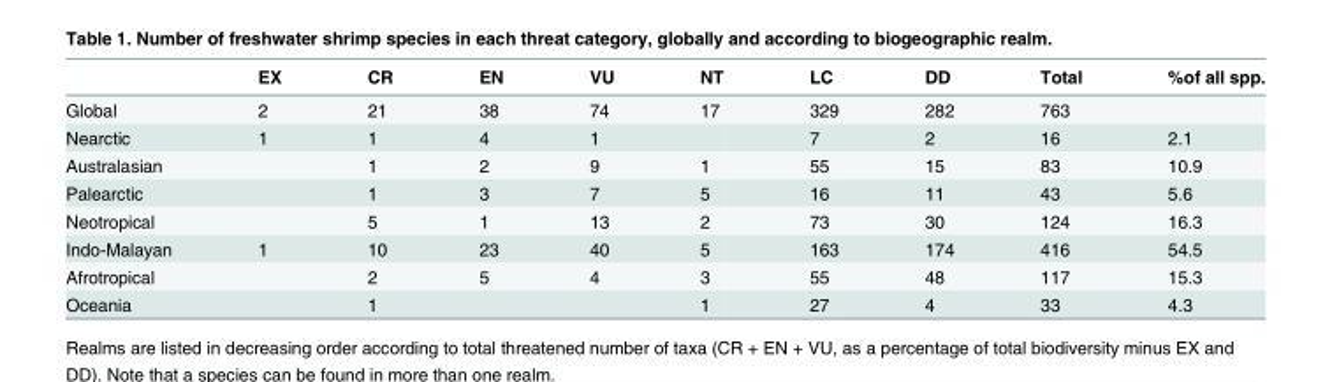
<table><thead><tr><td></td><td>EX</td><td>CR</td><td>EN</td><td>VU</td><td>NT</td><td>LC</td><td>DD</td><td>Total</td><td>%of all spp.</td></tr></thead><tbody><tr><td>Global</td><td>2</td><td>21</td><td>38</td><td>74</td><td>17</td><td>329</td><td>282</td><td>763</td><td></td></tr><tr><td>Nearctic</td><td>1</td><td>1</td><td>4</td><td>1</td><td></td><td>7</td><td>2</td><td>16</td><td>2.1</td></tr><tr><td>Australasian</td><td></td><td>1</td><td>2</td><td>9</td><td>1</td><td>55</td><td>15</td><td>83</td><td>10.9</td></tr><tr><td>Palearctic</td><td></td><td>1</td><td>3</td><td>7</td><td>5</td><td>16</td><td>11</td><td>43</td><td>5.6</td></tr><tr><td>Neotropical</td><td></td><td>5</td><td>1</td><td>13</td><td>2</td><td>73</td><td>30</td><td>124</td><td>16.3</td></tr><tr><td>Indo-Malayan</td><td>1</td><td>10</td><td>23</td><td>40</td><td>5</td><td>163</td><td>174</td><td>416</td><td>54.5</td></tr><tr><td>Afrotropical</td><td></td><td>2</td><td>5</td><td>4</td><td>3</td><td>55</td><td>48</td><td>117</td><td>15.3</td></tr><tr><td>Oceania</td><td></td><td>1</td><td></td><td></td><td>1</td><td>27</td><td>4</td><td>33</td><td>4.3</td></tr></tbody></table>